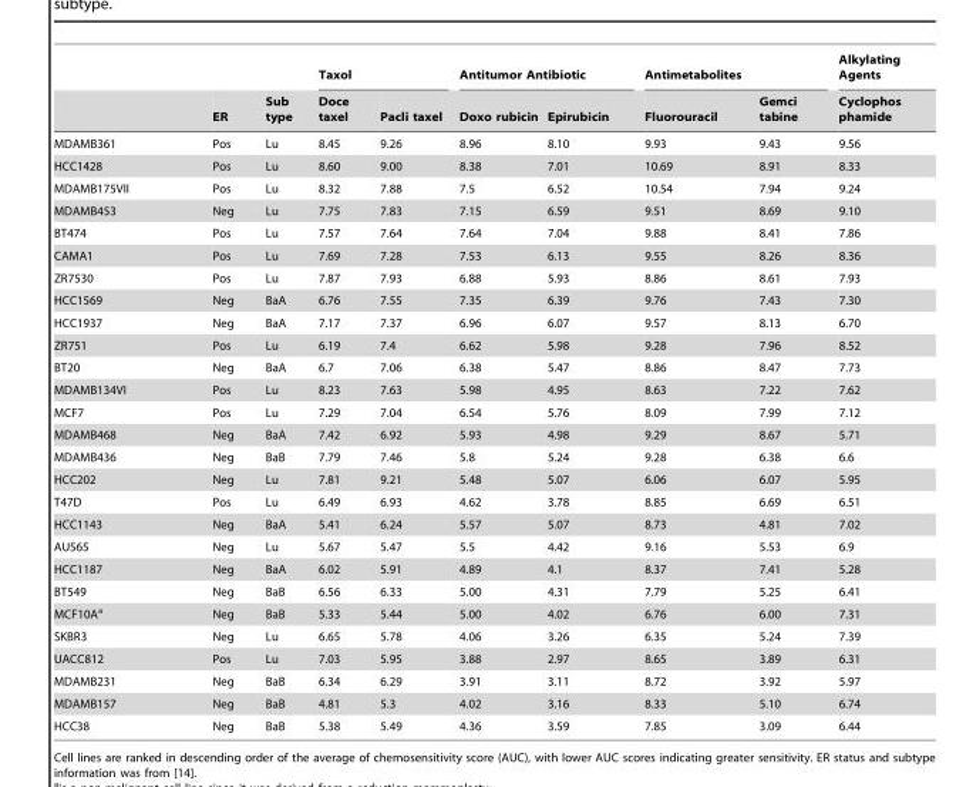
<table><thead><tr><td rowspan="2"></td><td rowspan="2">ER</td><td rowspan="2">Sub type</td><td colspan="2">Taxol</td><td colspan="2">Antitumor Antibiotic</td><td colspan="2">Antimetabolites</td><td rowspan="2">Alkylating Agents Cyclophos phamide</td></tr><tr><td>Doce taxel</td><td>Pacli taxel</td><td>Doxo rubicin</td><td>Epirubicin</td><td>Fluorouracil</td><td>Gemci tabine</td></tr></thead><tbody><tr><td>MDAMB361</td><td>Pos</td><td>Lu</td><td>8.45</td><td>9.26</td><td>8.96</td><td>8.10</td><td>9.93</td><td>9.43</td><td>9.56</td></tr><tr><td>HCC1428</td><td>Pos</td><td>Lu</td><td>8.60</td><td>9.00</td><td>8.38</td><td>7.01</td><td>10.69</td><td>8.91</td><td>8.33</td></tr><tr><td>MDAMB175VII</td><td>Pos</td><td>Lu</td><td>8.32</td><td>7.88</td><td>7.5</td><td>6.52</td><td>10.54</td><td>7.94</td><td>9.24</td></tr><tr><td>MDAMB453</td><td>Neg</td><td>Lu</td><td>7.75</td><td>7.83</td><td>7.15</td><td>6.59</td><td>9.51</td><td>8.69</td><td>9.10</td></tr><tr><td>BT474</td><td>Pos</td><td>Lu</td><td>7.57</td><td>7.64</td><td>7.64</td><td>7.04</td><td>9.88</td><td>8.41</td><td>7.86</td></tr><tr><td>CAMA1</td><td>Pos</td><td>Lu</td><td>7.69</td><td>7.28</td><td>7.53</td><td>6.13</td><td>9.55</td><td>8.26</td><td>8.36</td></tr><tr><td>ZR7530</td><td>Pos</td><td>Lu</td><td>7.87</td><td>7.93</td><td>6.88</td><td>5.93</td><td>8.86</td><td>8.61</td><td>7.93</td></tr><tr><td>HCC1569</td><td>Neg</td><td>BaA</td><td>6.76</td><td>7.55</td><td>7.35</td><td>6.39</td><td>9.76</td><td>7.43</td><td>7.30</td></tr><tr><td>HCC1937</td><td>Neg</td><td>BaA</td><td>7.17</td><td>7.37</td><td>6.96</td><td>6.07</td><td>9.57</td><td>8.13</td><td>6.70</td></tr><tr><td>ZR751</td><td>Pos</td><td>Lu</td><td>6.19</td><td>7.4</td><td>6.62</td><td>5.98</td><td>9.28</td><td>7.96</td><td>8.52</td></tr><tr><td>BT20</td><td>Neg</td><td>BaA</td><td>6.7</td><td>7.06</td><td>6.38</td><td>5.47</td><td>8.86</td><td>8.47</td><td>7.73</td></tr><tr><td>MDAMB134VI</td><td>Pos</td><td>Lu</td><td>8.23</td><td>7.63</td><td>5.98</td><td>4.95</td><td>8.63</td><td>7.22</td><td>7.62</td></tr><tr><td>MCF7</td><td>Pos</td><td>Lu</td><td>7.29</td><td>7.04</td><td>6.54</td><td>5.76</td><td>8.09</td><td>7.99</td><td>7.12</td></tr><tr><td>MDAMB468</td><td>Neg</td><td>BaA</td><td>7.42</td><td>6.92</td><td>5.93</td><td>4.98</td><td>9.29</td><td>8.67</td><td>5.71</td></tr><tr><td>MDAMB436</td><td>Neg</td><td>BaB</td><td>7.79</td><td>7.46</td><td>5.8</td><td>5.24</td><td>9.28</td><td>6.38</td><td>6.6</td></tr><tr><td>HCC202</td><td>Neg</td><td>Lu</td><td>7.81</td><td>9.21</td><td>5.48</td><td>5.07</td><td>6.06</td><td>6.07</td><td>5.95</td></tr><tr><td>T47D</td><td>Pos</td><td>Lu</td><td>6.49</td><td>6.93</td><td>4.62</td><td>3.78</td><td>8.85</td><td>6.69</td><td>6.51</td></tr><tr><td>HCC1143</td><td>Neg</td><td>BaA</td><td>5.41</td><td>6.24</td><td>5.57</td><td>5.07</td><td>8.73</td><td>4.81</td><td>7.02</td></tr><tr><td>AU565</td><td>Neg</td><td>Lu</td><td>5.67</td><td>5.47</td><td>5.5</td><td>4.42</td><td>9.16</td><td>5.53</td><td>6.9</td></tr><tr><td>HCC1187</td><td>Neg</td><td>BaA</td><td>6.02</td><td>5.91</td><td>4.89</td><td>4.1</td><td>8.37</td><td>7.41</td><td>5.28</td></tr><tr><td>BT549</td><td>Neg</td><td>BaB</td><td>6.56</td><td>6.33</td><td>5.00</td><td>4.31</td><td>7.79</td><td>5.25</td><td>6.41</td></tr><tr><td>MCF10A<sup>a</sup></td><td>Neg</td><td>BaB</td><td>5.33</td><td>5.44</td><td>5.00</td><td>4.02</td><td>6.76</td><td>6.00</td><td>7.31</td></tr><tr><td>SKBR3</td><td>Neg</td><td>Lu</td><td>6.65</td><td>5.78</td><td>4.06</td><td>3.26</td><td>6.35</td><td>5.24</td><td>7.39</td></tr><tr><td>UACC812</td><td>Pos</td><td>Lu</td><td>7.03</td><td>5.95</td><td>3.88</td><td>2.97</td><td>8.65</td><td>3.89</td><td>6.31</td></tr><tr><td>MDAMB231</td><td>Neg</td><td>BaB</td><td>6.34</td><td>6.29</td><td>3.91</td><td>3.11</td><td>8.72</td><td>3.92</td><td>5.97</td></tr><tr><td>MDAMB157</td><td>Neg</td><td>BaB</td><td>4.81</td><td>5.3</td><td>4.02</td><td>3.16</td><td>8.33</td><td>5.10</td><td>6.74</td></tr><tr><td>HCC38</td><td>Neg</td><td>BaB</td><td>5.38</td><td>5.49</td><td>4.36</td><td>3.59</td><td>7.85</td><td>3.09</td><td>6.44</td></tr></tbody></table>